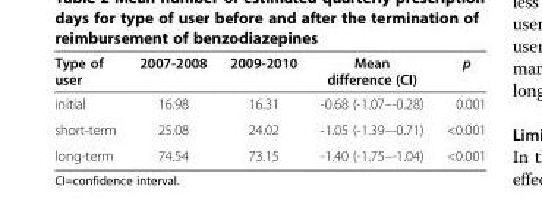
<table><thead><tr><td>Type of user</td><td>2007-2008</td><td>2009-2010</td><td>Mean difference (CI)</td><td>p</td></tr></thead><tbody><tr><td>initial</td><td>16.98</td><td>16.31</td><td>-0.68 (-1.07–-0.28)</td><td>0.001</td></tr><tr><td>short-term</td><td>25.08</td><td>24.02</td><td>-1.05 (-1.39–-0.71)</td><td>&lt;0.001</td></tr><tr><td>long-term</td><td>74.54</td><td>73.15</td><td>-1.40 (-1.75–-1.04)</td><td>&lt;0.001</td></tr></tbody></table>